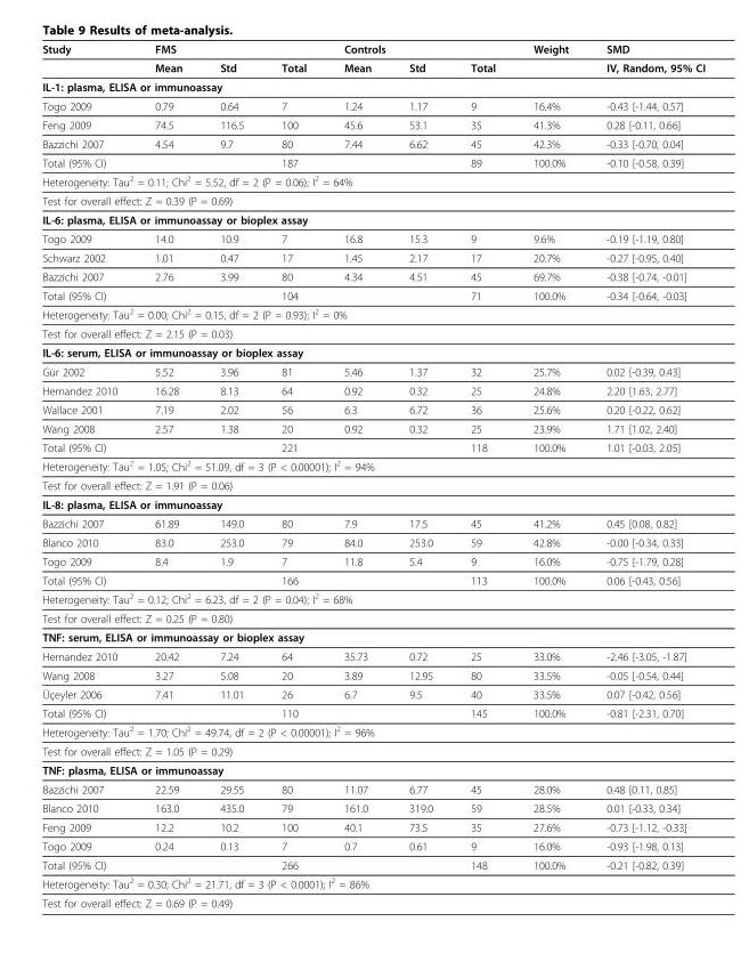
<table><thead><tr><td rowspan="2">Study</td><td colspan="3">FMS</td><td colspan="3">Controls</td><td rowspan="2">Weight</td><td rowspan="2">SMD IV, Random, 95% CI</td></tr><tr><td>Mean</td><td>Std</td><td>Total</td><td>Mean</td><td>Std</td><td>Total</td></tr></thead><tbody><tr><td colspan="9">IL-1: plasma, ELISA or immunoassay</td></tr><tr><td>Togo 2009</td><td>0.79</td><td>0.64</td><td>7</td><td>1.24</td><td>1.17</td><td>9</td><td>16.4%</td><td>-0.43 [-1.44, 0.57]</td></tr><tr><td>Feng 2009</td><td>74.5</td><td>116.5</td><td>100</td><td>45.6</td><td>53.1</td><td>35</td><td>41.3%</td><td>0.28 [-0.11, 0.66]</td></tr><tr><td>Bazzichi 2007</td><td>4.54</td><td>9.7</td><td>80</td><td>7.44</td><td>6.62</td><td>45</td><td>42.3%</td><td>-0.33 [-0.70, 0.04]</td></tr><tr><td>Total (95% CI)</td><td></td><td></td><td>187</td><td></td><td></td><td>89</td><td>100.0%</td><td>-0.10 [-0.58, 0.39]</td></tr><tr><td colspan="9">Heterogeneity: Tau<sup>2</sup> = 0.11; Chi<sup>2</sup> = 5.52, df = 2 (P = 0.06); I<sup>2</sup> = 64%</td></tr><tr><td colspan="9">Test for overall effect: Z = 0.39 (P = 0.69)</td></tr><tr><td colspan="9">IL-6: plasma, ELISA or immunoassay or bioplex assay</td></tr><tr><td>Togo 2009</td><td>14.0</td><td>10.9</td><td>7</td><td>16.8</td><td>15.3</td><td>9</td><td>9.6%</td><td>-0.19 [-1.19, 0.80]</td></tr><tr><td>Schwarz 2002</td><td>1.01</td><td>0.47</td><td>17</td><td>1.45</td><td>2.17</td><td>17</td><td>20.7%</td><td>-0.27 [-0.95, 0.40]</td></tr><tr><td>Bazzichi 2007</td><td>2.76</td><td>3.99</td><td>80</td><td>4.34</td><td>4.51</td><td>45</td><td>69.7%</td><td>-0.38 [-0.74, -0.01]</td></tr><tr><td>Total (95% CI)</td><td></td><td></td><td>104</td><td></td><td></td><td>71</td><td>100.0%</td><td>-0.34 [-0.64, -0.03]</td></tr><tr><td colspan="9">Heterogeneity: Tau<sup>2</sup> = 0.00; Chi<sup>2</sup> = 0.15, df = 2 (P = 0.93); I<sup>2</sup> = 0%</td></tr><tr><td colspan="9">Test for overall effect: Z = 2.15 (P = 0.03)</td></tr><tr><td colspan="9">IL-6: serum, ELISA or immunoassay or bioplex assay</td></tr><tr><td>Gür 2002</td><td>5.52</td><td>3.96</td><td>81</td><td>5.46</td><td>1.37</td><td>32</td><td>25.7%</td><td>0.02 [-0.39, 0.43]</td></tr><tr><td>Hernandez 2010</td><td>16.28</td><td>8.13</td><td>64</td><td>0.92</td><td>0.32</td><td>25</td><td>24.8%</td><td>2.20 [1.63, 2.77]</td></tr><tr><td>Wallace 2001</td><td>7.19</td><td>2.02</td><td>56</td><td>6.3</td><td>6.72</td><td>36</td><td>25.6%</td><td>0.20 [-0.22, 0.62]</td></tr><tr><td>Wang 2008</td><td>2.57</td><td>1.38</td><td>20</td><td>0.92</td><td>0.32</td><td>25</td><td>23.9%</td><td>1.71 [1.02, 2.40]</td></tr><tr><td>Total (95% CI)</td><td></td><td></td><td>221</td><td></td><td></td><td>118</td><td>100.0%</td><td>1.01 [-0.03, 2.05]</td></tr><tr><td colspan="9">Heterogeneity: Tau<sup>2</sup> = 1.05; Chi<sup>2</sup> = 51.09, df = 3 (P &lt; 0.00001); I<sup>2</sup> = 94%</td></tr><tr><td colspan="9">Test for overall effect: Z = 1.91 (P = 0.06)</td></tr><tr><td colspan="9">IL-8: plasma, ELISA or immunoassay</td></tr><tr><td>Bazzichi 2007</td><td>61.89</td><td>149.0</td><td>80</td><td>7.9</td><td>17.5</td><td>45</td><td>41.2%</td><td>0.45 [0.08, 0.82]</td></tr><tr><td>Blanco 2010</td><td>83.0</td><td>253.0</td><td>79</td><td>84.0</td><td>253.0</td><td>59</td><td>42.8%</td><td>-0.00 [-0.34, 0.33]</td></tr><tr><td>Togo 2009</td><td>8.4</td><td>1.9</td><td>7</td><td>11.8</td><td>5.4</td><td>9</td><td>16.0%</td><td>-0.75 [-1.79, 0.28]</td></tr><tr><td>Total (95% CI)</td><td></td><td></td><td>166</td><td></td><td></td><td>113</td><td>100.0%</td><td>0.06 [-0.43, 0.56]</td></tr><tr><td colspan="9">Heterogeneity: Tau<sup>2</sup> = 0.12; Chi<sup>2</sup> = 6.23, df = 2 (P = 0.04); I<sup>2</sup> = 68%</td></tr><tr><td colspan="9">Test for overall effect: Z = 0.25 (P = 0.80)</td></tr><tr><td colspan="9">TNF: serum, ELISA or immunoassay or bioplex assay</td></tr><tr><td>Hernandez 2010</td><td>20.42</td><td>7.24</td><td>64</td><td>35.73</td><td>0.72</td><td>25</td><td>33.0%</td><td>-2.46 [-3.05, -1.87]</td></tr><tr><td>Wang 2008</td><td>3.27</td><td>5.08</td><td>20</td><td>3.89</td><td>12.95</td><td>80</td><td>33.5%</td><td>-0.05 [-0.54, 0.44]</td></tr><tr><td>Üçeyler 2006</td><td>7.41</td><td>11.01</td><td>26</td><td>6.7</td><td>9.5</td><td>40</td><td>33.5%</td><td>0.07 [-0.42, 0.56]</td></tr><tr><td>Total (95% CI)</td><td></td><td></td><td>110</td><td></td><td></td><td>145</td><td>100.0%</td><td>-0.81 [-2.31, 0.70]</td></tr><tr><td colspan="9">Heterogeneity: Tau<sup>2</sup> = 1.70; Chi<sup>2</sup> = 49.74, df = 2 (P &lt; 0.00001); I<sup>2</sup> = 96%</td></tr><tr><td colspan="9">Test for overall effect: Z = 1.05 (P = 0.29)</td></tr><tr><td colspan="9">TNF: plasma, ELISA or immunoassay</td></tr><tr><td>Bazzichi 2007</td><td>22.59</td><td>29.55</td><td>80</td><td>11.07</td><td>6.77</td><td>45</td><td>28.0%</td><td>0.48 [0.11, 0.85]</td></tr><tr><td>Blanco 2010</td><td>163.0</td><td>435.0</td><td>79</td><td>161.0</td><td>319.0</td><td>59</td><td>28.5%</td><td>0.01 [-0.33, 0.34]</td></tr><tr><td>Feng 2009</td><td>12.2</td><td>10.2</td><td>100</td><td>40.1</td><td>73.5</td><td>35</td><td>27.6%</td><td>-0.73 [-1.12, -0.33]</td></tr><tr><td>Togo 2009</td><td>0.24</td><td>0.13</td><td>7</td><td>0.7</td><td>0.61</td><td>9</td><td>16.0%</td><td>-0.93 [-1.98, 0.13]</td></tr><tr><td>Total (95% CI)</td><td></td><td></td><td>266</td><td></td><td></td><td>148</td><td>100.0%</td><td>-0.21 [-0.82, 0.39]</td></tr><tr><td colspan="9">Heterogeneity: Tau<sup>2</sup> = 0.30; Chi<sup>2</sup> = 21.71, df = 3 (P &lt; 0.0001); I<sup>2</sup> = 86%</td></tr><tr><td colspan="9">Test for overall effect: Z = 0.69 (P = 0.49)</td></tr></tbody></table>